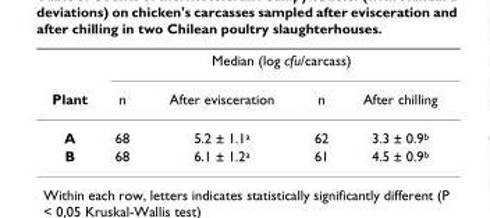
<table><thead><tr><td rowspan="2">Plant</td><td colspan="4">Median (log cfu/carcass)</td></tr><tr><td>n</td><td>After evisceration</td><td>n</td><td>After chilling</td></tr></thead><tbody><tr><td>A</td><td>68</td><td>5.2 ± 1.1<sup>a</sup></td><td>62</td><td>3.3 ± 0.9<sup>b</sup></td></tr><tr><td>B</td><td>68</td><td>6.1 ± 1.2<sup>a</sup></td><td>61</td><td>4.5 ± 0.9<sup>b</sup></td></tr></tbody></table>